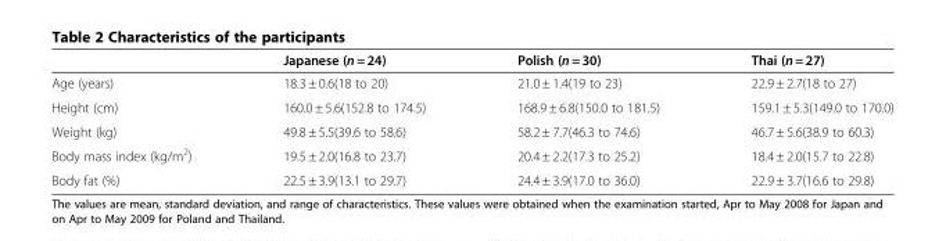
<table><thead><tr><td></td><td>Japanese (n = 24)</td><td>Polish (n = 30)</td><td>Thai (n = 27)</td></tr></thead><tbody><tr><td>Age (years)</td><td>18.3 ± 0.6(18 to 20)</td><td>21.0 ± 1.4(19 to 23)</td><td>22.9 ± 2.7(18 to 27)</td></tr><tr><td>Height (cm)</td><td>160.0 ± 5.6(152.8 to 174.5)</td><td>168.9 ± 6.8(150.0 to 181.5)</td><td>159.1 ± 5.3(149.0 to 170.0)</td></tr><tr><td>Weight (kg)</td><td>49.8 ± 5.5(39.6 to 58.6)</td><td>58.2 ± 7.7(46.3 to 74.6)</td><td>46.7 ± 5.6(38.9 to 60.3)</td></tr><tr><td>Body mass index (kg/m<sup>2</sup>)</td><td>19.5 ± 2.0(16.8 to 23.7)</td><td>20.4 ± 2.2(17.3 to 25.2)</td><td>18.4 ± 2.0(15.7 to 22.8)</td></tr><tr><td>Body fat (%)</td><td>22.5 ± 3.9(13.1 to 29.7)</td><td>24.4 ± 3.9(17.0 to 36.0)</td><td>22.9 ± 3.7(16.6 to 29.8)</td></tr></tbody></table>